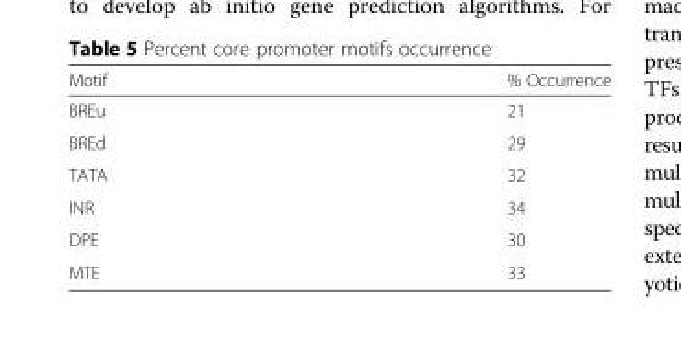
<table><thead><tr><td>Motif</td><td>% Occurrence</td></tr></thead><tbody><tr><td>BREu</td><td>21</td></tr><tr><td>BREd</td><td>29</td></tr><tr><td>TATA</td><td>32</td></tr><tr><td>INR</td><td>34</td></tr><tr><td>DPE</td><td>30</td></tr><tr><td>MTE</td><td>33</td></tr></tbody></table>